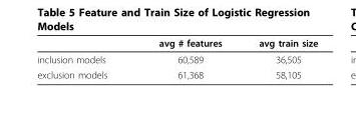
<table><thead><tr><td></td><td>avg # features</td><td>avg train size</td></tr></thead><tbody><tr><td>inclusion models</td><td>60,589</td><td>36,505</td></tr><tr><td>exclusion models</td><td>61,368</td><td>58,105</td></tr></tbody></table>